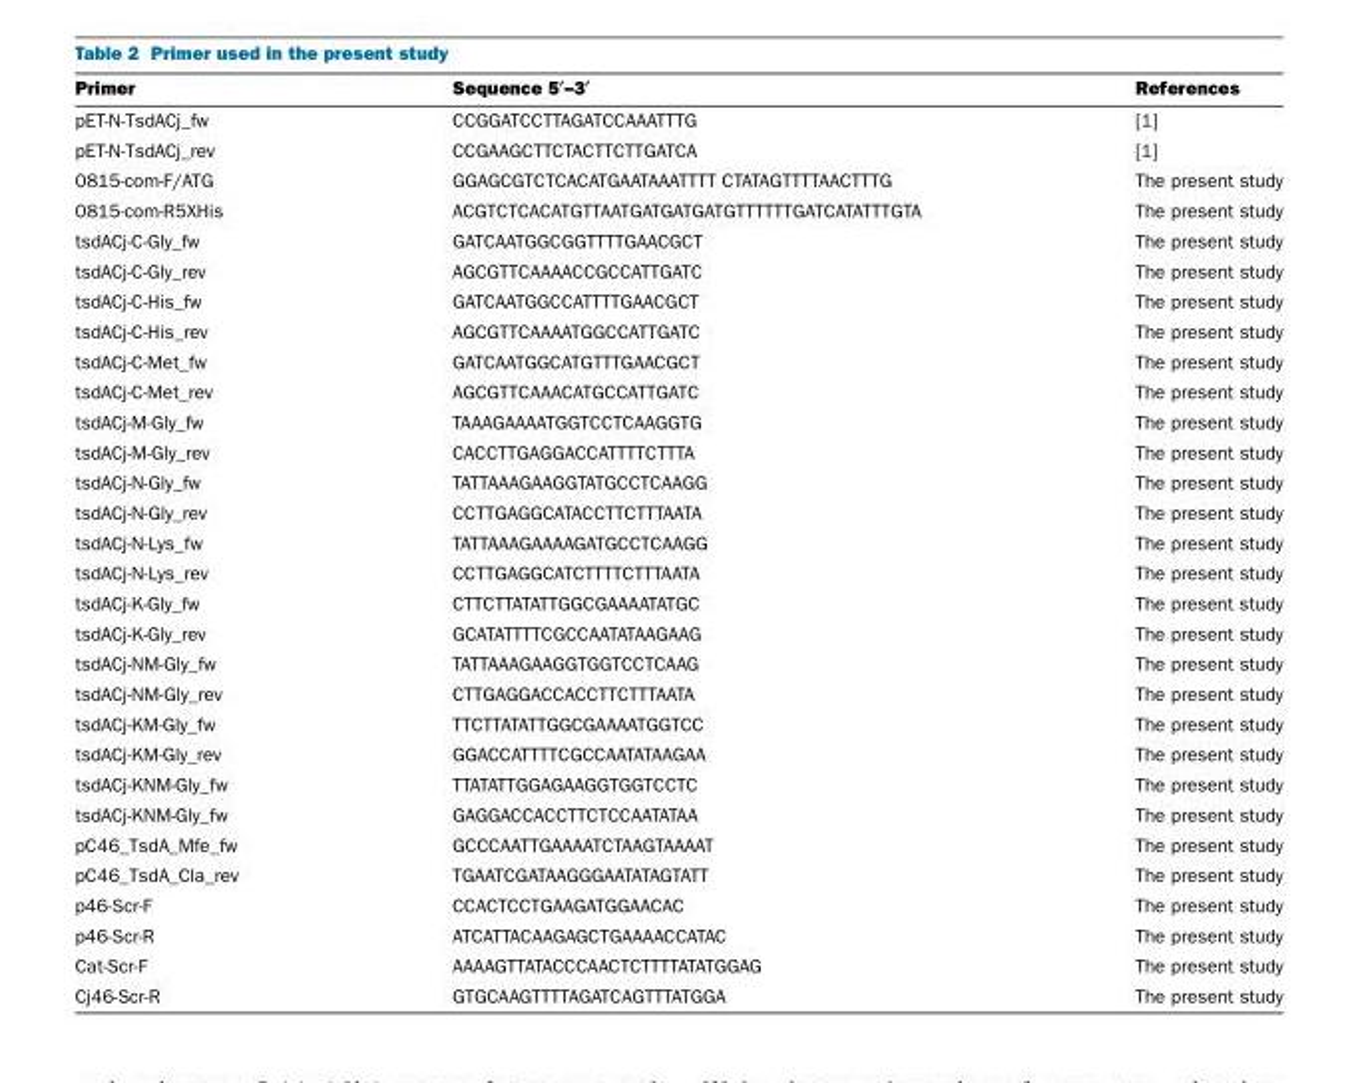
<table><thead><tr><td>Primer</td><td>Sequence 5′–3′</td><td>References</td></tr></thead><tbody><tr><td>pET-N-TsdACj_fw</td><td>CCGGATCCTTAGATCCAAATTTG</td><td>[1]</td></tr><tr><td>pET-N-TsdACj_rev</td><td>CCGAAGCTTCTACTTCTTGATCA</td><td>[1]</td></tr><tr><td>0815-com-F/ATG</td><td>GGAGCGTCTCACATGAATAAATTTT CTATAGTTTTAACTTTG</td><td>The present study</td></tr><tr><td>0815-com-R5XHis</td><td>ACGTCTCACATGTTAATGATGATGATGTTTTTTGATCATATTTGTA</td><td>The present study</td></tr><tr><td>tsdACj-C-Gly_fw</td><td>GATCAATGGCGGTTTTGAACGCT</td><td>The present study</td></tr><tr><td>tsdACj-C-Gly_rev</td><td>AGCGTTCAAAACCGCCATTGATC</td><td>The present study</td></tr><tr><td>tsdACj-C-His_fw</td><td>GATCAATGGCCATTTTGAACGCT</td><td>The present study</td></tr><tr><td>tsdACj-C-His_rev</td><td>AGCGTTCAAAATGGCCATTGATC</td><td>The present study</td></tr><tr><td>tsdACj-C-Met_fw</td><td>GATCAATGGCATGTTTGAACGCT</td><td>The present study</td></tr><tr><td>tsdACj-C-Met_rev</td><td>AGCGTTCAAACATGCCATTGATC</td><td>The present study</td></tr><tr><td>tsdACj-M-Gly_fw</td><td>TAAAGAAAATGGTCCTCAAGGTG</td><td>The present study</td></tr><tr><td>tsdACj-M-Gly_rev</td><td>CACCTTGAGGACCATTTTCTTTA</td><td>The present study</td></tr><tr><td>tsdACj-N-Gly_fw</td><td>TATTAAAGAAGGTATGCCTCAAGG</td><td>The present study</td></tr><tr><td>tsdACj-N-Gly_rev</td><td>CCTTGAGGCATACCTTCTTTAATA</td><td>The present study</td></tr><tr><td>tsdACj-N-Lys_fw</td><td>TATTAAAGAAAAGATGCCTCAAGG</td><td>The present study</td></tr><tr><td>tsdACj-N-Lys_rev</td><td>CCTTGAGGCATCTTTTCTTTAATA</td><td>The present study</td></tr><tr><td>tsdACj-K-Gly_fw</td><td>CTTCTTATATTGGCGAAAATATGC</td><td>The present study</td></tr><tr><td>tsdACj-K-Gly_rev</td><td>GCATATTTTCGCCAATATAAGAAG</td><td>The present study</td></tr><tr><td>tsdACj-NM-Gly_fw</td><td>TATTAAAGAAGGTGGTCCTCAAG</td><td>The present study</td></tr><tr><td>tsdACj-NM-Gly_rev</td><td>CTTGAGGACCACCTTCTTTAATA</td><td>The present study</td></tr><tr><td>tsdACj-KM-Gly_fw</td><td>TTCTTATATTGGCGAAAATGGTCC</td><td>The present study</td></tr><tr><td>tsdACj-KM-Gly_rev</td><td>GGACCATTTTCGCCAATATAAGAA</td><td>The present study</td></tr><tr><td>tsdACj-KNM-Gly_fw</td><td>TTATATTGGAGAAGGTGGTCCTC</td><td>The present study</td></tr><tr><td>tsdACj-KNM-Gly_fw</td><td>GAGGACCACCTTCTCCAATATAA</td><td>The present study</td></tr><tr><td>pC46_TsdA_Mfe_fw</td><td>GCCCAATTGAAAATCTAAGTAAAAT</td><td>The present study</td></tr><tr><td>pC46_TsdA_Cla_rev</td><td>TGAATCGATAAGGGAATATAGTATT</td><td>The present study</td></tr><tr><td>p46-Scr-F</td><td>CCACTCCTGAAGATGGAACAC</td><td>The present study</td></tr><tr><td>p46-Scr-R</td><td>ATCATTACAAGAGCTGAAAACCATAC</td><td>The present study</td></tr><tr><td>Cat-Scr-F</td><td>AAAAGTTATACCCAACTCTTTTATATGGAG</td><td>The present study</td></tr><tr><td>Cj46-Scr-R</td><td>GTGCAAGTTTTAGATCAGTTTATGGA</td><td>The present study</td></tr></tbody></table>